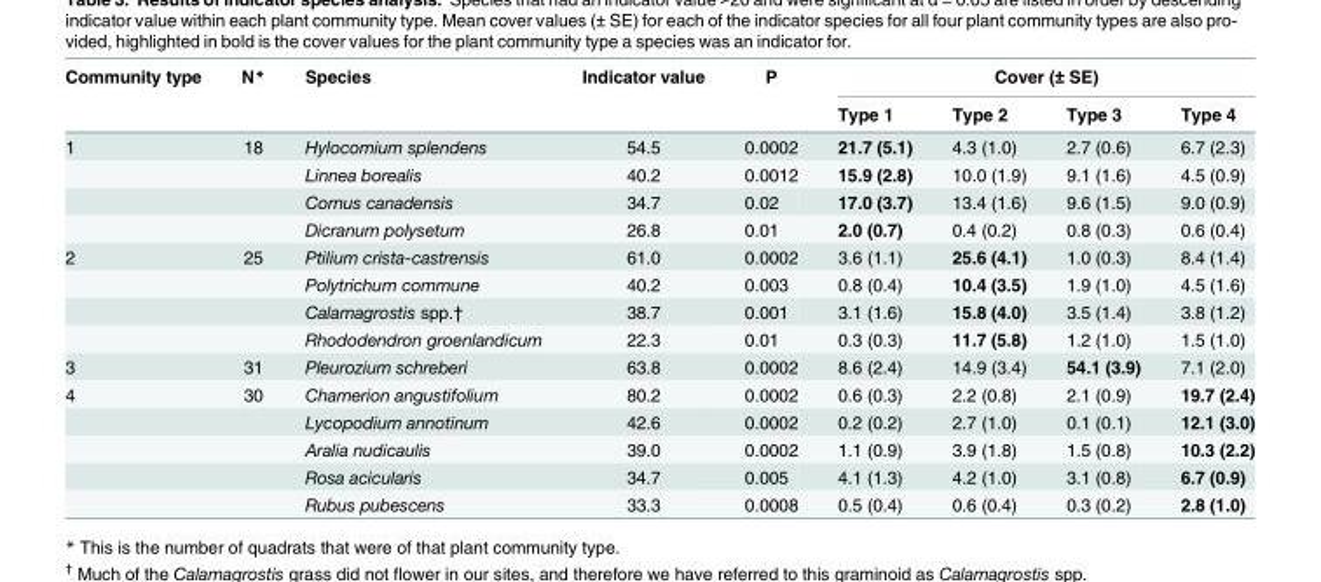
<table><thead><tr><td rowspan="2">Community type</td><td rowspan="2">N*</td><td rowspan="2">Species</td><td rowspan="2">Indicator value</td><td rowspan="2">P</td><td colspan="4">Cover (± SE)</td></tr><tr><td>Type 1</td><td>Type 2</td><td>Type 3</td><td>Type 4</td></tr></thead><tbody><tr><td rowspan="4">1</td><td>18</td><td>Hylocomium splendens</td><td>54.5</td><td>0.0002</td><td>21.7 (5.1)</td><td>4.3 (1.0)</td><td>2.7 (0.6)</td><td>6.7 (2.3)</td></tr><tr><td></td><td>Linnea borealis</td><td>40.2</td><td>0.0012</td><td>15.9 (2.8)</td><td>10.0 (1.9)</td><td>9.1 (1.6)</td><td>4.5 (0.9)</td></tr><tr><td></td><td>Cornus canadensis</td><td>34.7</td><td>0.02</td><td>17.0 (3.7)</td><td>13.4 (1.6)</td><td>9.6 (1.5)</td><td>9.0 (0.9)</td></tr><tr><td></td><td>Dicranum polysetum</td><td>26.8</td><td>0.01</td><td>2.0 (0.7)</td><td>0.4 (0.2)</td><td>0.8 (0.3)</td><td>0.6 (0.4)</td></tr><tr><td rowspan="4">2</td><td>25</td><td>Ptilium crista-castrensis</td><td>61.0</td><td>0.0002</td><td>3.6 (1.1)</td><td>25.6 (4.1)</td><td>1.0 (0.3)</td><td>8.4 (1.4)</td></tr><tr><td></td><td>Polytrichum commune</td><td>40.2</td><td>0.003</td><td>0.8 (0.4)</td><td>10.4 (3.5)</td><td>1.9 (1.0)</td><td>4.5 (1.6)</td></tr><tr><td></td><td>Calamagrostis spp.†</td><td>38.7</td><td>0.001</td><td>3.1 (1.6)</td><td>15.8 (4.0)</td><td>3.5 (1.4)</td><td>3.8 (1.2)</td></tr><tr><td></td><td>Rhododendron groenlandicum</td><td>22.3</td><td>0.01</td><td>0.3 (0.3)</td><td>11.7 (5.8)</td><td>1.2 (1.0)</td><td>1.5 (1.0)</td></tr><tr><td>3</td><td>31</td><td>Pleurozium schreberi</td><td>63.8</td><td>0.0002</td><td>8.6 (2.4)</td><td>14.9 (3.4)</td><td>54.1 (3.9)</td><td>7.1 (2.0)</td></tr><tr><td rowspan="5">4</td><td>30</td><td>Chamerion angustifolium</td><td>80.2</td><td>0.0002</td><td>0.6 (0.3)</td><td>2.2 (0.8)</td><td>2.1 (0.9)</td><td>19.7 (2.4)</td></tr><tr><td></td><td>Lycopodium annotinum</td><td>42.6</td><td>0.0002</td><td>0.2 (0.2)</td><td>2.7 (1.0)</td><td>0.1 (0.1)</td><td>12.1 (3.0)</td></tr><tr><td></td><td>Aralia nudicaulis</td><td>39.0</td><td>0.0002</td><td>1.1 (0.9)</td><td>3.9 (1.8)</td><td>1.5 (0.8)</td><td>10.3 (2.2)</td></tr><tr><td></td><td>Rosa acicularis</td><td>34.7</td><td>0.005</td><td>4.1 (1.3)</td><td>4.2 (1.0)</td><td>3.1 (0.8)</td><td>6.7 (0.9)</td></tr><tr><td></td><td>Rubus pubescens</td><td>33.3</td><td>0.0008</td><td>0.5 (0.4)</td><td>0.6 (0.4)</td><td>0.3 (0.2)</td><td>2.8 (1.0)</td></tr></tbody></table>